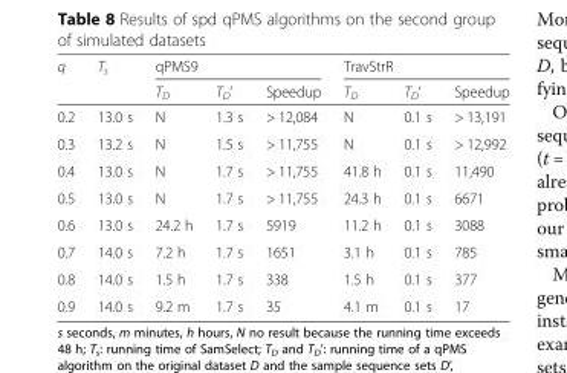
<table><thead><tr><td rowspan="2">q</td><td rowspan="2">T<sub>s</sub></td><td colspan="3">qPMS9</td><td colspan="3">TravStrR</td></tr><tr><td>T<sub>D</sub></td><td>T<sub>D</sub>’</td><td>Speedup</td><td>T<sub>D</sub></td><td>T<sub>D</sub>’</td><td>Speedup</td></tr></thead><tbody><tr><td>0.2</td><td>13.0 s</td><td>N</td><td>1.3 s</td><td>&gt; 12,084</td><td>N</td><td>0.1 s</td><td>&gt; 13,191</td></tr><tr><td>0.3</td><td>13.2 s</td><td>N</td><td>1.5 s</td><td>&gt; 11,755</td><td>N</td><td>0.1 s</td><td>&gt; 12,992</td></tr><tr><td>0.4</td><td>13.0 s</td><td>N</td><td>1.7 s</td><td>&gt; 11,755</td><td>41.8 h</td><td>0.1 s</td><td>11,490</td></tr><tr><td>0.5</td><td>13.0 s</td><td>N</td><td>1.7 s</td><td>&gt; 11,755</td><td>24.3 h</td><td>0.1 s</td><td>6671</td></tr><tr><td>0.6</td><td>13.0 s</td><td>24.2 h</td><td>1.7 s</td><td>5919</td><td>11.2 h</td><td>0.1 s</td><td>3088</td></tr><tr><td>0.7</td><td>14.0 s</td><td>7.2 h</td><td>1.7 s</td><td>1651</td><td>3.1 h</td><td>0.1 s</td><td>785</td></tr><tr><td>0.8</td><td>14.0 s</td><td>1.5 h</td><td>1.7 s</td><td>338</td><td>1.5 h</td><td>0.1 s</td><td>377</td></tr><tr><td>0.9</td><td>14.0 s</td><td>9.2 m</td><td>1.7 s</td><td>35</td><td>4.1 m</td><td>0.1 s</td><td>17</td></tr></tbody></table>